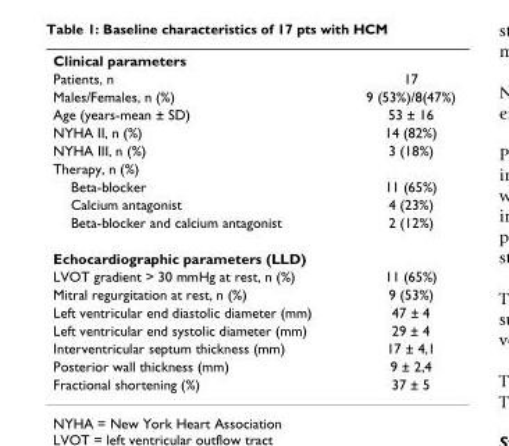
<table><tbody><tr><td colspan="2">Clinical parameters</td></tr><tr><td>Patients, n</td><td>17</td></tr><tr><td>Males/Females, n (%)</td><td>9 (53%)/8(47%)</td></tr><tr><td>Age (years-mean ± SD)</td><td>53 ± 16</td></tr><tr><td>NYHA II, n (%)</td><td>14 (82%)</td></tr><tr><td>NYHA III, n (%)</td><td>3 (18%)</td></tr><tr><td colspan="2">Therapy, n (%)</td></tr><tr><td>Beta-blocker</td><td>11 (65%)</td></tr><tr><td>Calcium antagonist</td><td>4 (23%)</td></tr><tr><td>Beta-blocker and calcium antagonist</td><td>2 (12%)</td></tr><tr><td colspan="2">Echocardiographic parameters (LLD)</td></tr><tr><td>LVOT gradient &gt; 30 mmHg at rest, n (%)</td><td>11 (65%)</td></tr><tr><td>Mitral regurgitation at rest, n (%)</td><td>9 (53%)</td></tr><tr><td>Left ventricular end diastolic diameter (mm)</td><td>47 ± 4</td></tr><tr><td>Left ventricular end systolic diameter (mm)</td><td>29 ± 4</td></tr><tr><td>Interventricular septum thickness (mm)</td><td>17 ± 4,1</td></tr><tr><td>Posterior wall thickness (mm)</td><td>9 ± 2,4</td></tr><tr><td>Fractional shortening (%)</td><td>37 ± 5</td></tr></tbody></table>